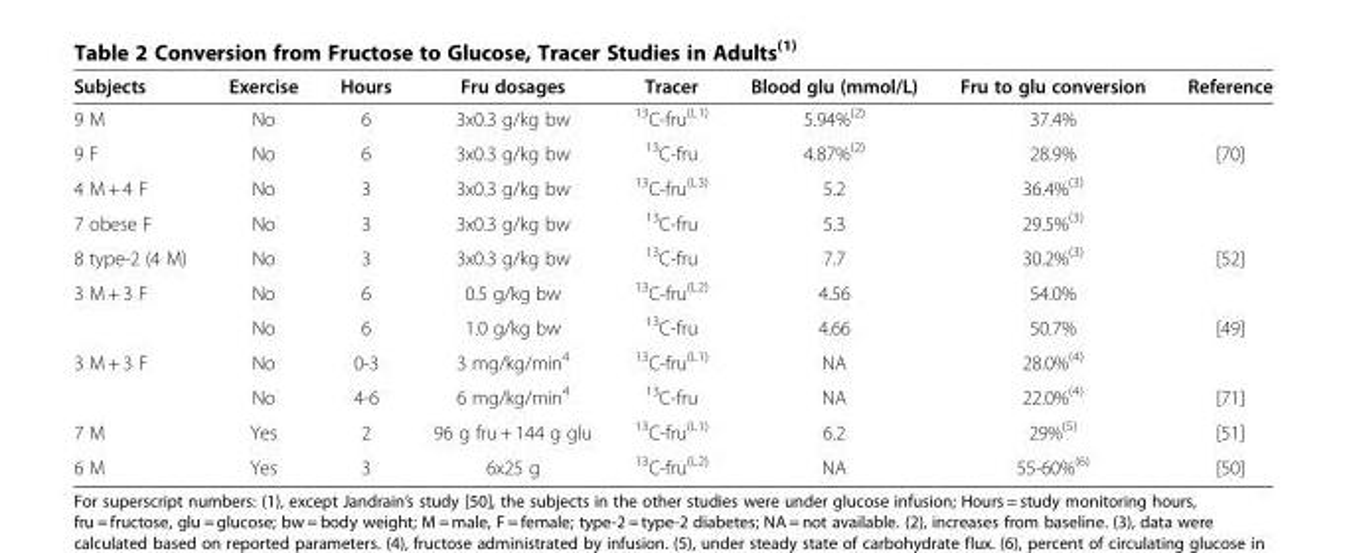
<table><thead><tr><td>Subjects</td><td>Exercise</td><td>Hours</td><td>Fru dosages</td><td>Tracer</td><td>Blood glu (mmol/L)</td><td>Fru to glu conversion</td><td>Reference</td></tr></thead><tbody><tr><td>9 M</td><td>No</td><td>6</td><td>3x0.3 g/kg bw</td><td><sup>13</sup>C-fru<sup>(L1)</sup></td><td>5.94%<sup>(2)</sup></td><td>37.4%</td><td></td></tr><tr><td>9 F</td><td>No</td><td>6</td><td>3x0.3 g/kg bw</td><td><sup>13</sup>C-fru</td><td>4.87%<sup>(2)</sup></td><td>28.9%</td><td>[70]</td></tr><tr><td>4 M + 4 F</td><td>No</td><td>3</td><td>3x0.3 g/kg bw</td><td><sup>13</sup>C-fru<sup>(L3)</sup></td><td>5.2</td><td>36.4%<sup>(3)</sup></td><td></td></tr><tr><td>7 obese F</td><td>No</td><td>3</td><td>3x0.3 g/kg bw</td><td><sup>13</sup>C-fru</td><td>5.3</td><td>29.5%<sup>(3)</sup></td><td></td></tr><tr><td>8 type-2 (4 M)</td><td>No</td><td>3</td><td>3x0.3 g/kg bw</td><td><sup>13</sup>C-fru</td><td>7.7</td><td>30.2%<sup>(3)</sup></td><td>[52]</td></tr><tr><td rowspan="2">3 M + 3 F</td><td>No</td><td>6</td><td>0.5 g/kg bw</td><td><sup>13</sup>C-fru<sup>(L2)</sup></td><td>4.56</td><td>54.0%</td><td></td></tr><tr><td>No</td><td>6</td><td>1.0 g/kg bw</td><td><sup>13</sup>C-fru</td><td>4.66</td><td>50.7%</td><td>[49]</td></tr><tr><td rowspan="2">3 M + 3 F</td><td>No</td><td>0-3</td><td>3 mg/kg/min<sup>4</sup></td><td><sup>13</sup>C-fru<sup>(L1)</sup></td><td>NA</td><td>28.0%<sup>(4)</sup></td><td></td></tr><tr><td>No</td><td>4-6</td><td>6 mg/kg/min<sup>4</sup></td><td><sup>13</sup>C-fru</td><td>NA</td><td>22.0%<sup>(4)</sup></td><td>[71]</td></tr><tr><td>7 M</td><td>Yes</td><td>2</td><td>96 g fru + 144 g glu</td><td><sup>13</sup>C-fru<sup>(L1)</sup></td><td>6.2</td><td>29%<sup>(5)</sup></td><td>[51]</td></tr><tr><td>6 M</td><td>Yes</td><td>3</td><td>6x25 g</td><td><sup>13</sup>C-fru<sup>(L2)</sup></td><td>NA</td><td>55-60%<sup>(6)</sup></td><td>[50]</td></tr></tbody></table>